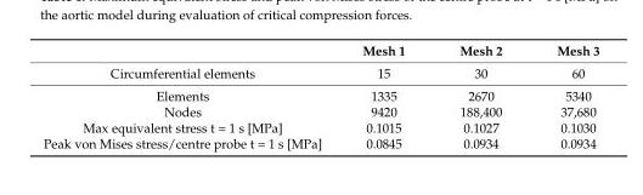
<table><thead><tr><td></td><td>Mesh 1</td><td>Mesh 2</td><td>Mesh 3</td></tr></thead><tbody><tr><td>Circumferential elements</td><td>15</td><td>30</td><td>60</td></tr><tr><td>Elements</td><td>1335</td><td>2670</td><td>5340</td></tr><tr><td>Nodes</td><td>9420</td><td>188,400</td><td>37,680</td></tr><tr><td>Max equivalent stress t = 1 s [MPa]</td><td>0.1015</td><td>0.1027</td><td>0.1030</td></tr><tr><td>Peak von Mises stress/centre probe t = 1 s [MPa]</td><td>0.0845</td><td>0.0934</td><td>0.0934</td></tr></tbody></table>